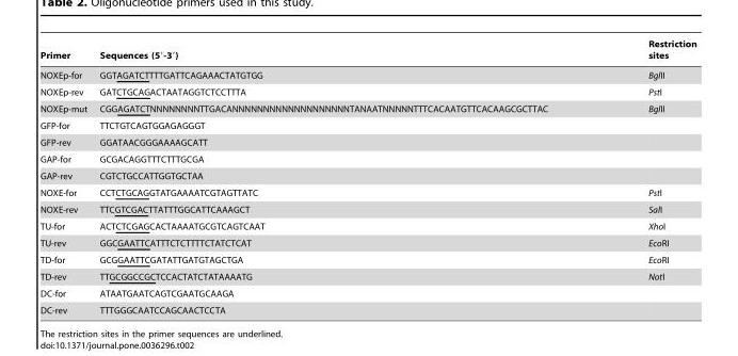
<table><thead><tr><td>Primer</td><td>Sequences (5′-3′)</td><td>Restriction sites</td></tr></thead><tbody><tr><td>NOXEp-for</td><td>GGTAGATCTTTTGATTCAGAAACTATGTGG</td><td>BglII</td></tr><tr><td>NOXEp-rev</td><td>GATCTGCAGACTAATAGGTCTCCTTTA</td><td>PstI</td></tr><tr><td>NOXEp-mut</td><td>CGGAGATCTNNNNNNNNTTGACANNNNNNNNNNNNNNNNNNNTANAATNNNNNTTTCACAATGTTCACAAGCGCTTAC</td><td>BglII</td></tr><tr><td>GFP-for</td><td>TTCTGTCAGTGGAGAGGGT</td><td></td></tr><tr><td>GFP-rev</td><td>GGATAACGGGAAAAGCATT</td><td></td></tr><tr><td>GAP-for</td><td>GCGACAGGTTTCTTTGCGA</td><td></td></tr><tr><td>GAP-rev</td><td>CGTCTGCCATTGGTGCTAA</td><td></td></tr><tr><td>NOXE-for</td><td>CCTCTGCAGGTATGAAAATCGTAGTTATC</td><td>PstI</td></tr><tr><td>NOXE-rev</td><td>TTCGTCGACTTATTTGGCATTCAAAGCT</td><td>SalI</td></tr><tr><td>TU-for</td><td>ACTCTCGAGCACTAAAATGCGTCAGTCAAT</td><td>XhoI</td></tr><tr><td>TU-rev</td><td>GGCGAATTCATTTCTCTTTTCTATCTCAT</td><td>EcoRI</td></tr><tr><td>TD-for</td><td>GCGGAATTCGATATTGATGTAGCTGA</td><td>EcoRI</td></tr><tr><td>TD-rev</td><td>TTGCGGCCGCTCCACTATCTATAAAATG</td><td>NotI</td></tr><tr><td>DC-for</td><td>ATAATGAATCAGTCGAATGCAAGA</td><td></td></tr><tr><td>DC-rev</td><td>TTTGGGCAATCCAGCAACTCCTA</td><td></td></tr></tbody></table>